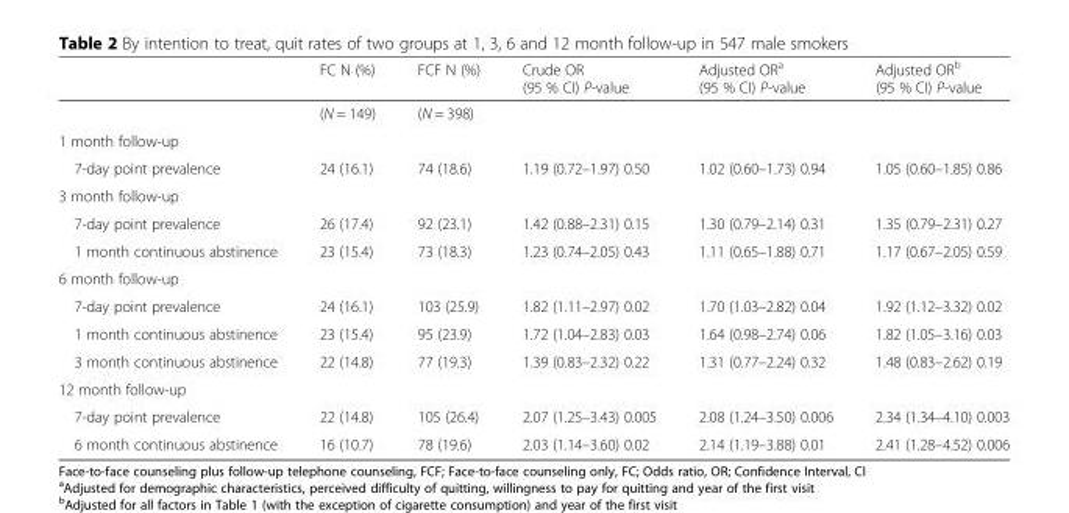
<table><thead><tr><td></td><td>FC N (%)</td><td>FCF N (%)</td><td>Crude OR (95 % CI) P-value</td><td>Adjusted OR<sup>a</sup> (95 % CI) P-value</td><td>Adjusted OR<sup>b</sup> (95 % CI) P-value</td></tr></thead><tbody><tr><td></td><td>(N = 149)</td><td>(N = 398)</td><td></td><td></td><td></td></tr><tr><td colspan="6">1 month follow-up</td></tr><tr><td>7-day point prevalence</td><td>24 (16.1)</td><td>74 (18.6)</td><td>1.19 (0.72–1.97) 0.50</td><td>1.02 (0.60–1.73) 0.94</td><td>1.05 (0.60–1.85) 0.86</td></tr><tr><td colspan="6">3 month follow-up</td></tr><tr><td>7-day point prevalence</td><td>26 (17.4)</td><td>92 (23.1)</td><td>1.42 (0.88–2.31) 0.15</td><td>1.30 (0.79–2.14) 0.31</td><td>1.35 (0.79–2.31) 0.27</td></tr><tr><td>1 month continuous abstinence</td><td>23 (15.4)</td><td>73 (18.3)</td><td>1.23 (0.74–2.05) 0.43</td><td>1.11 (0.65–1.88) 0.71</td><td>1.17 (0.67–2.05) 0.59</td></tr><tr><td colspan="6">6 month follow-up</td></tr><tr><td>7-day point prevalence</td><td>24 (16.1)</td><td>103 (25.9)</td><td>1.82 (1.11–2.97) 0.02</td><td>1.70 (1.03–2.82) 0.04</td><td>1.92 (1.12–3.32) 0.02</td></tr><tr><td>1 month continuous abstinence</td><td>23 (15.4)</td><td>95 (23.9)</td><td>1.72 (1.04–2.83) 0.03</td><td>1.64 (0.98–2.74) 0.06</td><td>1.82 (1.05–3.16) 0.03</td></tr><tr><td>3 month continuous abstinence</td><td>22 (14.8)</td><td>77 (19.3)</td><td>1.39 (0.83–2.32) 0.22</td><td>1.31 (0.77–2.24) 0.32</td><td>1.48 (0.83–2.62) 0.19</td></tr><tr><td colspan="6">12 month follow-up</td></tr><tr><td>7-day point prevalence</td><td>22 (14.8)</td><td>105 (26.4)</td><td>2.07 (1.25–3.43) 0.005</td><td>2.08 (1.24–3.50) 0.006</td><td>2.34 (1.34–4.10) 0.003</td></tr><tr><td>6 month continuous abstinence</td><td>16 (10.7)</td><td>78 (19.6)</td><td>2.03 (1.14–3.60) 0.02</td><td>2.14 (1.19–3.88) 0.01</td><td>2.41 (1.28–4.52) 0.006</td></tr></tbody></table>